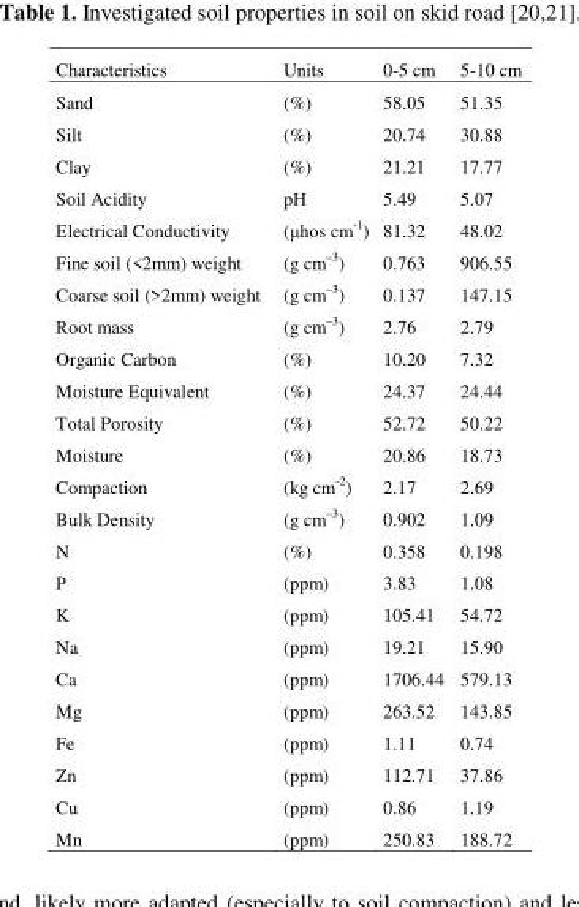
<table><thead><tr><td>Characteristics</td><td>Units</td><td>0-5 cm</td><td>5-10 cm</td></tr></thead><tbody><tr><td>Sand</td><td>(%)</td><td>58.05</td><td>51.35</td></tr><tr><td>Silt</td><td>(%)</td><td>20.74</td><td>30.88</td></tr><tr><td>Clay</td><td>(%)</td><td>21.21</td><td>17.77</td></tr><tr><td>Soil Acidity</td><td>pH</td><td>5.49</td><td>5.07</td></tr><tr><td>Electrical Conductivity</td><td>(µhos cm<sup>-1</sup>)</td><td>81.32</td><td>48.02</td></tr><tr><td>Fine soil (&lt;2mm) weight</td><td>(g cm<sup>–3</sup>)</td><td>0.763</td><td>906.55</td></tr><tr><td>Coarse soil (&gt;2mm) weight</td><td>(g cm<sup>–3</sup>)</td><td>0.137</td><td>147.15</td></tr><tr><td>Root mass</td><td>(g cm<sup>–3</sup>)</td><td>2.76</td><td>2.79</td></tr><tr><td>Organic Carbon</td><td>(%)</td><td>10.20</td><td>7.32</td></tr><tr><td>Moisture Equivalent</td><td>(%)</td><td>24.37</td><td>24.44</td></tr><tr><td>Total Porosity</td><td>(%)</td><td>52.72</td><td>50.22</td></tr><tr><td>Moisture</td><td>(%)</td><td>20.86</td><td>18.73</td></tr><tr><td>Compaction</td><td>(kg cm<sup>-2</sup>)</td><td>2.17</td><td>2.69</td></tr><tr><td>Bulk Density</td><td>(g cm<sup>–3</sup>)</td><td>0.902</td><td>1.09</td></tr><tr><td>N</td><td>(%)</td><td>0.358</td><td>0.198</td></tr><tr><td>P</td><td>(ppm)</td><td>3.83</td><td>1.08</td></tr><tr><td>K</td><td>(ppm)</td><td>105.41</td><td>54.72</td></tr><tr><td>Na</td><td>(ppm)</td><td>19.21</td><td>15.90</td></tr><tr><td>Ca</td><td>(ppm)</td><td>1706.44</td><td>579.13</td></tr><tr><td>Mg</td><td>(ppm)</td><td>263.52</td><td>143.85</td></tr><tr><td>Fe</td><td>(ppm)</td><td>1.11</td><td>0.74</td></tr><tr><td>Zn</td><td>(ppm)</td><td>112.71</td><td>37.86</td></tr><tr><td>Cu</td><td>(ppm)</td><td>0.86</td><td>1.19</td></tr><tr><td>Mn</td><td>(ppm)</td><td>250.83</td><td>188.72</td></tr></tbody></table>